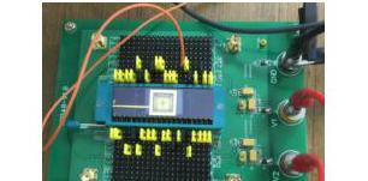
<table><thead><tr><td></td><td>Range (ns)</td><td>Step (ns)</td></tr></thead><tbody><tr><td>1st DTS</td><td>111.69</td><td>11.169</td></tr><tr><td>2nd DTS</td><td>18.66</td><td>4.665</td></tr><tr><td>3rd DTS</td><td>6.436</td><td>0.257</td></tr><tr><td>4th DTS</td><td>0.26</td><td>0.0046</td></tr></tbody></table>